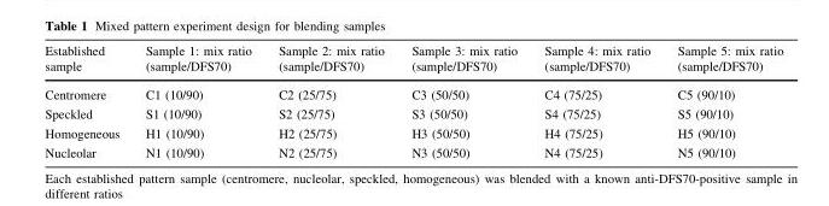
<table><thead><tr><td>Established sample</td><td>Sample 1: mix ratio (sample/DFS70)</td><td>Sample 2: mix ratio (sample/DFS70)</td><td>Sample 3: mix ratio (sample/DFS70)</td><td>Sample 4: mix ratio (sample/DFS70)</td><td>Sample 5: mix ratio (sample/DFS70)</td></tr></thead><tbody><tr><td>Centromere</td><td>C1 (10/90)</td><td>C2 (25/75)</td><td>C3 (50/50)</td><td>C4 (75/25)</td><td>C5 (90/10)</td></tr><tr><td>Speckled</td><td>S1 (10/90)</td><td>S2 (25/75)</td><td>S3 (50/50)</td><td>S4 (75/25)</td><td>S5 (90/10)</td></tr><tr><td>Homogeneous</td><td>H1 (10/90)</td><td>H2 (25/75)</td><td>H3 (50/50)</td><td>H4 (75/25)</td><td>H5 (90/10)</td></tr><tr><td>Nucleolar</td><td>N1 (10/90)</td><td>N2 (25/75)</td><td>N3 (50/50)</td><td>N4 (75/25)</td><td>N5 (90/10)</td></tr></tbody></table>